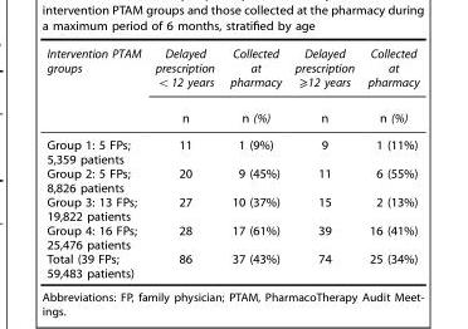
<table><thead><tr><td rowspan="2">Intervention PTAM groups</td><td rowspan="2">Delayed prescription &lt;12 years n</td><td rowspan="2">Collected at pharmacy n (%)</td><td rowspan="2">Delayed prescription ⩾12 years n</td><td rowspan="2">Collected at pharmacy n (%)</td></tr><tr></tr></thead><tbody><tr><td>Group 1: 5 FPs; 5,359 patients</td><td>11</td><td>1 (9%)</td><td>9</td><td>1 (11%)</td></tr><tr><td>Group 2: 5 FPs; 8,826 patients</td><td>20</td><td>9 (45%)</td><td>11</td><td>6 (55%)</td></tr><tr><td>Group 3: 13 FPs; 19,822 patients</td><td>27</td><td>10 (37%)</td><td>15</td><td>2 (13%)</td></tr><tr><td>Group 4: 16 FPs; 25,476 patients</td><td>28</td><td>17 (61%)</td><td>39</td><td>16 (41%)</td></tr><tr><td>Total (39 FPs; 59,483 patients)</td><td>86</td><td>37 (43%)</td><td>74</td><td>25 (34%)</td></tr></tbody></table>